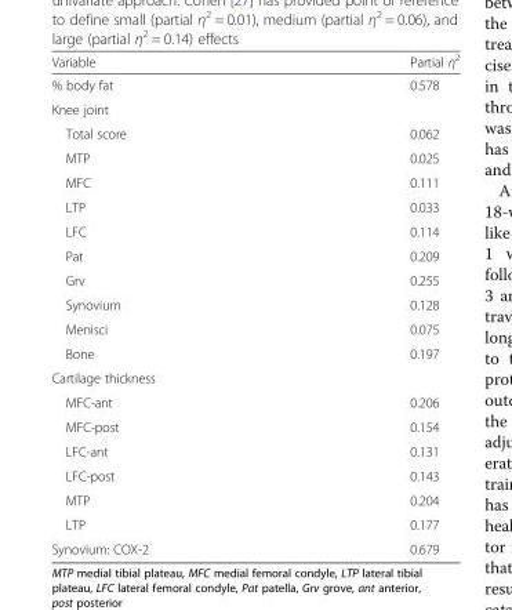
<table><thead><tr><td>Variable</td><td>Partial η<sup>2</sup></td></tr></thead><tbody><tr><td>% body fat</td><td>0.578</td></tr><tr><td colspan="2">Knee joint</td></tr><tr><td>Total score</td><td>0.062</td></tr><tr><td>MTP</td><td>0.025</td></tr><tr><td>MFC</td><td>0.111</td></tr><tr><td>LTP</td><td>0.033</td></tr><tr><td>LFC</td><td>0.114</td></tr><tr><td>Pat</td><td>0.209</td></tr><tr><td>Grv</td><td>0.255</td></tr><tr><td>Synovium</td><td>0.128</td></tr><tr><td>Menisci</td><td>0.075</td></tr><tr><td>Bone</td><td>0.197</td></tr><tr><td colspan="2">Cartilage thickness</td></tr><tr><td>MFC-ant</td><td>0.206</td></tr><tr><td>MFC-post</td><td>0.154</td></tr><tr><td>LFC-ant</td><td>0.131</td></tr><tr><td>LFC-post</td><td>0.143</td></tr><tr><td>MTP</td><td>0.204</td></tr><tr><td>LTP</td><td>0.177</td></tr><tr><td>Synovium: COX-2</td><td>0.679</td></tr></tbody></table>